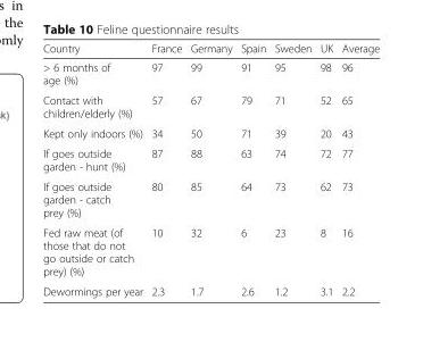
<table><thead><tr><td>Country</td><td>France</td><td>Germany</td><td>Spain</td><td>Sweden</td><td>UK</td><td>Average</td></tr></thead><tbody><tr><td>&gt; 6 months of age (%)</td><td>97</td><td>99</td><td>91</td><td>95</td><td>98</td><td>96</td></tr><tr><td>Contact with children/elderly (%)</td><td>57</td><td>67</td><td>79</td><td>71</td><td>52</td><td>65</td></tr><tr><td>Kept only indoors (%)</td><td>34</td><td>50</td><td>71</td><td>39</td><td>20</td><td>43</td></tr><tr><td>If goes outside garden - hunt (%)</td><td>87</td><td>88</td><td>63</td><td>74</td><td>72</td><td>77</td></tr><tr><td>If goes outside garden - catch prey (%)</td><td>80</td><td>85</td><td>64</td><td>73</td><td>62</td><td>73</td></tr><tr><td>Fed raw meat (of those that do not go outside or catch prey) (%)</td><td>10</td><td>32</td><td>6</td><td>23</td><td>8</td><td>16</td></tr><tr><td>Dewormings per year</td><td>2.3</td><td>1.7</td><td>2.6</td><td>1.2</td><td>3.1</td><td>2.2</td></tr></tbody></table>